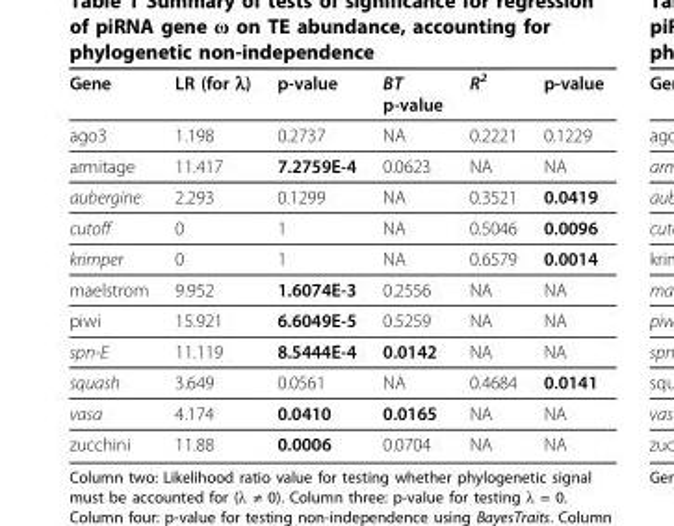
<table><thead><tr><td>Gene</td><td>LR (for λ)</td><td>p-value</td><td>BT p-value</td><td>R<sup>2</sup></td><td>p-value</td></tr></thead><tbody><tr><td>ago3</td><td>1.198</td><td>0.2737</td><td>NA</td><td>0.2221</td><td>0.1229</td></tr><tr><td>armitage</td><td>11.417</td><td>7.2759E-4</td><td>0.0623</td><td>NA</td><td>NA</td></tr><tr><td>aubergine</td><td>2.293</td><td>0.1299</td><td>NA</td><td>0.3521</td><td>0.0419</td></tr><tr><td>cutoff</td><td>0</td><td>1</td><td>NA</td><td>0.5046</td><td>0.0096</td></tr><tr><td>krimper</td><td>0</td><td>1</td><td>NA</td><td>0.6579</td><td>0.0014</td></tr><tr><td>maelstrom</td><td>9.952</td><td>1.6074E-3</td><td>0.2556</td><td>NA</td><td>NA</td></tr><tr><td>piwi</td><td>15.921</td><td>6.6049E-5</td><td>0.5259</td><td>NA</td><td>NA</td></tr><tr><td>spn-E</td><td>11.119</td><td>8.5444E-4</td><td>0.0142</td><td>NA</td><td>NA</td></tr><tr><td>squash</td><td>3.649</td><td>0.0561</td><td>NA</td><td>0.4684</td><td>0.0141</td></tr><tr><td>vasa</td><td>4.174</td><td>0.0410</td><td>0.0165</td><td>NA</td><td>NA</td></tr><tr><td>zucchini</td><td>11.88</td><td>0.0006</td><td>0.0704</td><td>NA</td><td>NA</td></tr></tbody></table>